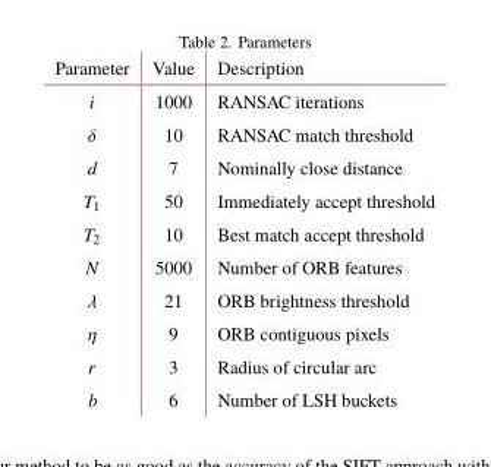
<table><thead><tr><td>Parameter</td><td>Value</td><td>Description</td></tr></thead><tbody><tr><td>i</td><td>1000</td><td>RANSAC iterations</td></tr><tr><td>δ</td><td>10</td><td>RANSAC match threshold</td></tr><tr><td>d</td><td>7</td><td>Nominally close distance</td></tr><tr><td>T<sub>1</sub></td><td>50</td><td>Immediately accept threshold</td></tr><tr><td>T<sub>2</sub></td><td>10</td><td>Best match accept threshold</td></tr><tr><td>N</td><td>5000</td><td>Number of ORB features</td></tr><tr><td>λ</td><td>21</td><td>ORB brightness threshold</td></tr><tr><td>η</td><td>9</td><td>ORB contiguous pixels</td></tr><tr><td>r</td><td>3</td><td>Radius of circular arc</td></tr><tr><td>b</td><td>6</td><td>Number of LSH buckets</td></tr></tbody></table>